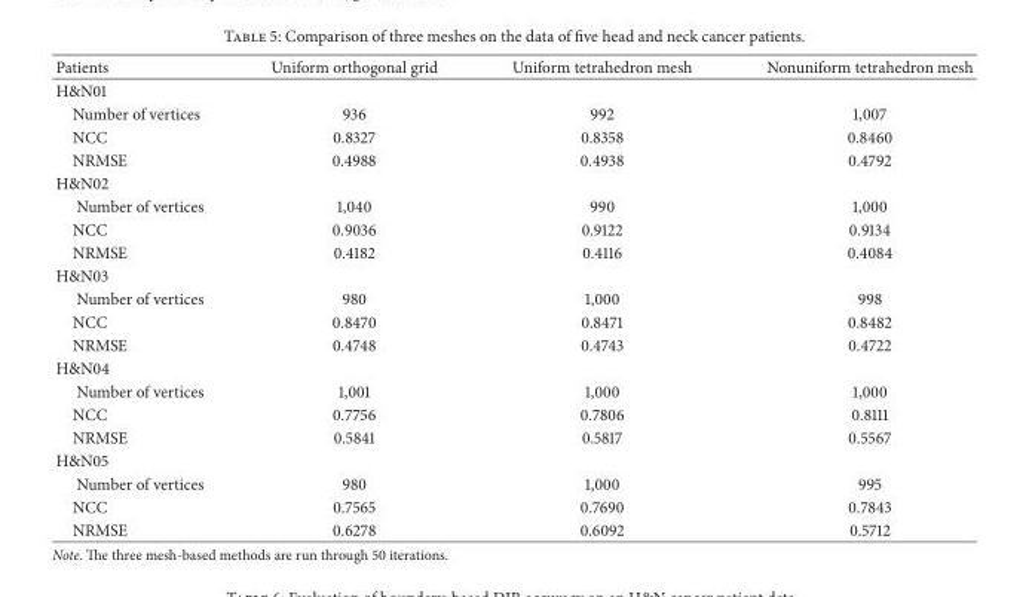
<table><thead><tr><td>Patients</td><td>Uniform orthogonal grid</td><td>Uniform tetrahedron mesh</td><td>Nonuniform tetrahedron mesh</td></tr></thead><tbody><tr><td colspan="4">H&amp;N01</td></tr><tr><td>Number of vertices</td><td>936</td><td>992</td><td>1,007</td></tr><tr><td>NCC</td><td>0.8327</td><td>0.8358</td><td>0.8460</td></tr><tr><td>NRMSE</td><td>0.4988</td><td>0.4938</td><td>0.4792</td></tr><tr><td colspan="4">H&amp;N02</td></tr><tr><td>Number of vertices</td><td>1,040</td><td>990</td><td>1,000</td></tr><tr><td>NCC</td><td>0.9036</td><td>0.9122</td><td>0.9134</td></tr><tr><td>NRMSE</td><td>0.4182</td><td>0.4116</td><td>0.4084</td></tr><tr><td colspan="4">H&amp;N03</td></tr><tr><td>Number of vertices</td><td>980</td><td>1,000</td><td>998</td></tr><tr><td>NCC</td><td>0.8470</td><td>0.8471</td><td>0.8482</td></tr><tr><td>NRMSE</td><td>0.4748</td><td>0.4743</td><td>0.4722</td></tr><tr><td colspan="4">H&amp;N04</td></tr><tr><td>Number of vertices</td><td>1,001</td><td>1,000</td><td>1,000</td></tr><tr><td>NCC</td><td>0.7756</td><td>0.7806</td><td>0.8111</td></tr><tr><td>NRMSE</td><td>0.5841</td><td>0.5817</td><td>0.5567</td></tr><tr><td colspan="4">H&amp;N05</td></tr><tr><td>Number of vertices</td><td>980</td><td>1,000</td><td>995</td></tr><tr><td>NCC</td><td>0.7565</td><td>0.7690</td><td>0.7843</td></tr><tr><td>NRMSE</td><td>0.6278</td><td>0.6092</td><td>0.5712</td></tr></tbody></table>